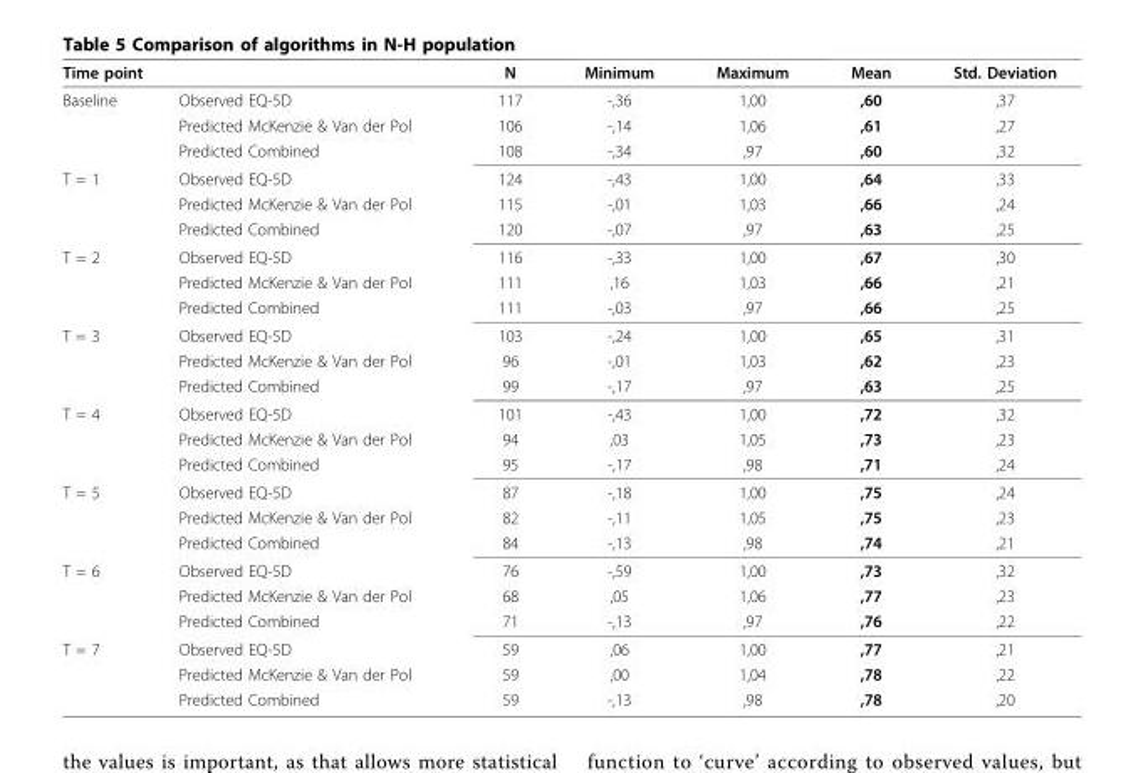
<table><thead><tr><td colspan="2">Time point</td><td rowspan="2">N 117</td><td rowspan="2">Minimum -,36</td><td rowspan="2">Maximum 1,00</td><td rowspan="2">Mean ,60</td><td rowspan="2">Std. Deviation ,37</td></tr><tr><td>Baseline</td><td>Observed EQ-5D</td></tr></thead><tbody><tr><td></td><td>Predicted McKenzie &amp; Van der Pol</td><td>106</td><td>-,14</td><td>1,06</td><td>,61</td><td>,27</td></tr><tr><td></td><td>Predicted Combined</td><td>108</td><td>-,34</td><td>,97</td><td>,60</td><td>,32</td></tr><tr><td rowspan="3">T = 1</td><td>Observed EQ-5D</td><td>124</td><td>-,43</td><td>1,00</td><td>,64</td><td>,33</td></tr><tr><td>Predicted McKenzie &amp; Van der Pol</td><td>115</td><td>-,01</td><td>1,03</td><td>,66</td><td>,24</td></tr><tr><td>Predicted Combined</td><td>120</td><td>-,07</td><td>,97</td><td>,63</td><td>,25</td></tr><tr><td rowspan="3">T = 2</td><td>Observed EQ-5D</td><td>116</td><td>-,33</td><td>1,00</td><td>,67</td><td>,30</td></tr><tr><td>Predicted McKenzie &amp; Van der Pol</td><td>111</td><td>,16</td><td>1,03</td><td>,66</td><td>,21</td></tr><tr><td>Predicted Combined</td><td>111</td><td>-,03</td><td>,97</td><td>,66</td><td>,25</td></tr><tr><td rowspan="3">T = 3</td><td>Observed EQ-5D</td><td>103</td><td>-,24</td><td>1,00</td><td>,65</td><td>,31</td></tr><tr><td>Predicted McKenzie &amp; Van der Pol</td><td>96</td><td>-,01</td><td>1,03</td><td>,62</td><td>,23</td></tr><tr><td>Predicted Combined</td><td>99</td><td>-,17</td><td>,97</td><td>,63</td><td>,25</td></tr><tr><td rowspan="3">T = 4</td><td>Observed EQ-5D</td><td>101</td><td>-,43</td><td>1,00</td><td>,72</td><td>,32</td></tr><tr><td>Predicted McKenzie &amp; Van der Pol</td><td>94</td><td>,03</td><td>1,05</td><td>,73</td><td>,23</td></tr><tr><td>Predicted Combined</td><td>95</td><td>-,17</td><td>,98</td><td>,71</td><td>,24</td></tr><tr><td rowspan="3">T = 5</td><td>Observed EQ-5D</td><td>87</td><td>-,18</td><td>1,00</td><td>,75</td><td>,24</td></tr><tr><td>Predicted McKenzie &amp; Van der Pol</td><td>82</td><td>-,11</td><td>1,05</td><td>,75</td><td>,23</td></tr><tr><td>Predicted Combined</td><td>84</td><td>-,13</td><td>,98</td><td>,74</td><td>,21</td></tr><tr><td rowspan="3">T = 6</td><td>Observed EQ-5D</td><td>76</td><td>-,59</td><td>1,00</td><td>,73</td><td>,32</td></tr><tr><td>Predicted McKenzie &amp; Van der Pol</td><td>68</td><td>,05</td><td>1,06</td><td>,77</td><td>,23</td></tr><tr><td>Predicted Combined</td><td>71</td><td>-,13</td><td>,97</td><td>,76</td><td>,22</td></tr><tr><td rowspan="3">T = 7</td><td>Observed EQ-5D</td><td>59</td><td>,06</td><td>1,00</td><td>,77</td><td>,21</td></tr><tr><td>Predicted McKenzie &amp; Van der Pol</td><td>59</td><td>,00</td><td>1,04</td><td>,78</td><td>,22</td></tr><tr><td>Predicted Combined</td><td>59</td><td>-,13</td><td>,98</td><td>,78</td><td>,20</td></tr></tbody></table>